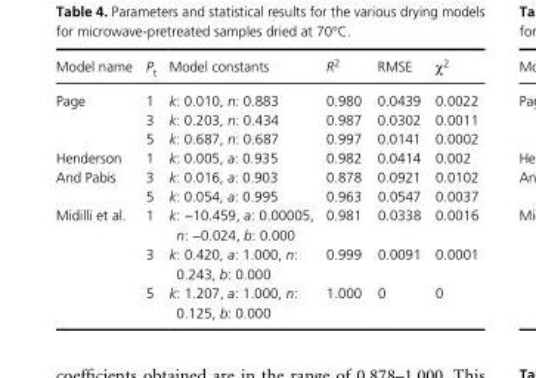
<table><thead><tr><td>Model name</td><td>P<sub>t</sub></td><td>Model constants</td><td>R<sup>2</sup></td><td>RMSE</td><td>χ<sup>2</sup></td></tr></thead><tbody><tr><td rowspan="3">Page</td><td>1</td><td>k: 0.010, n: 0.883</td><td>0.980</td><td>0.0439</td><td>0.0022</td></tr><tr><td>3</td><td>k: 0.203, n: 0.434</td><td>0.987</td><td>0.0302</td><td>0.0011</td></tr><tr><td>5</td><td>k: 0.687, n: 0.687</td><td>0.997</td><td>0.0141</td><td>0.0002</td></tr><tr><td>Henderson</td><td>1</td><td>k: 0.005, a: 0.935</td><td>0.982</td><td>0.0414</td><td>0.002</td></tr><tr><td rowspan="2">And Pabis</td><td>3</td><td>k: 0.016, a: 0.903</td><td>0.878</td><td>0.0921</td><td>0.0102</td></tr><tr><td>5</td><td>k: 0.054, a: 0.995</td><td>0.963</td><td>0.0547</td><td>0.0037</td></tr><tr><td rowspan="3">Midilli et al.</td><td>1</td><td>k: −10.459, a: 0.00005, n: −0.024, b: 0.000</td><td>0.981</td><td>0.0338</td><td>0.0016</td></tr><tr><td>3</td><td>k: 0.420, a: 1.000, n: 0.243, b: 0.000</td><td>0.999</td><td>0.0091</td><td>0.0001</td></tr><tr><td>5</td><td>k: 1.207, a: 1.000, n: 0.125, b: 0.000</td><td>1.000</td><td>0</td><td>0</td></tr></tbody></table>